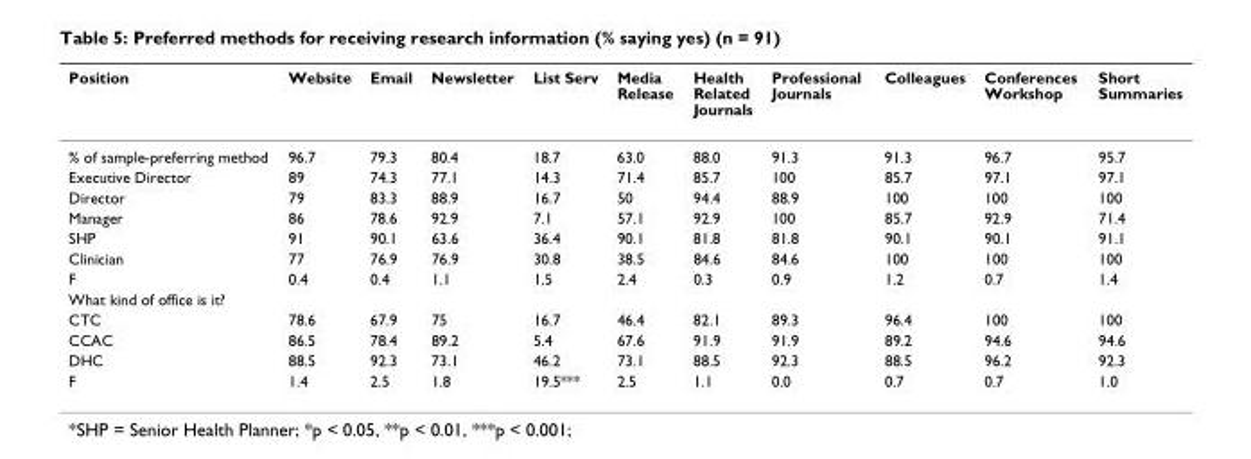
<table><thead><tr><td>Position</td><td>Website</td><td>Email</td><td>Newsletter</td><td>List Serv</td><td>Media Release</td><td>Health Related Journals</td><td>Professional Journals</td><td>Colleagues</td><td>Conferences Workshop</td><td>Short Summaries</td></tr></thead><tbody><tr><td>% of sample-preferring method</td><td>96.7</td><td>79.3</td><td>80.4</td><td>18.7</td><td>63.0</td><td>88.0</td><td>91.3</td><td>91.3</td><td>96.7</td><td>95.7</td></tr><tr><td>Executive Director</td><td>89</td><td>74.3</td><td>77.1</td><td>14.3</td><td>71.4</td><td>85.7</td><td>100</td><td>85.7</td><td>97.1</td><td>97.1</td></tr><tr><td>Director</td><td>79</td><td>83.3</td><td>88.9</td><td>16.7</td><td>50</td><td>94.4</td><td>88.9</td><td>100</td><td>100</td><td>100</td></tr><tr><td>Manager</td><td>86</td><td>78.6</td><td>92.9</td><td>7.1</td><td>57.1</td><td>92.9</td><td>100</td><td>85.7</td><td>92.9</td><td>71.4</td></tr><tr><td>SHP</td><td>91</td><td>90.1</td><td>63.6</td><td>36.4</td><td>90.1</td><td>81.8</td><td>81.8</td><td>90.1</td><td>90.1</td><td>91.1</td></tr><tr><td>Clinician</td><td>77</td><td>76.9</td><td>76.9</td><td>30.8</td><td>38.5</td><td>84.6</td><td>84.6</td><td>100</td><td>100</td><td>100</td></tr><tr><td>F</td><td>0.4</td><td>0.4</td><td>1.1</td><td>1.5</td><td>2.4</td><td>0.3</td><td>0.9</td><td>1.2</td><td>0.7</td><td>1.4</td></tr><tr><td colspan="11">What kind of office is it?</td></tr><tr><td>CTC</td><td>78.6</td><td>67.9</td><td>75</td><td>16.7</td><td>46.4</td><td>82.1</td><td>89.3</td><td>96.4</td><td>100</td><td>100</td></tr><tr><td>CCAC</td><td>86.5</td><td>78.4</td><td>89.2</td><td>5.4</td><td>67.6</td><td>91.9</td><td>91.9</td><td>89.2</td><td>94.6</td><td>94.6</td></tr><tr><td>DHC</td><td>88.5</td><td>92.3</td><td>73.1</td><td>46.2</td><td>73.1</td><td>88.5</td><td>92.3</td><td>88.5</td><td>96.2</td><td>92.3</td></tr><tr><td>F</td><td>1.4</td><td>2.5</td><td>1.8</td><td>19.5***</td><td>2.5</td><td>1.1</td><td>0.0</td><td>0.7</td><td>0.7</td><td>1.0</td></tr></tbody></table>